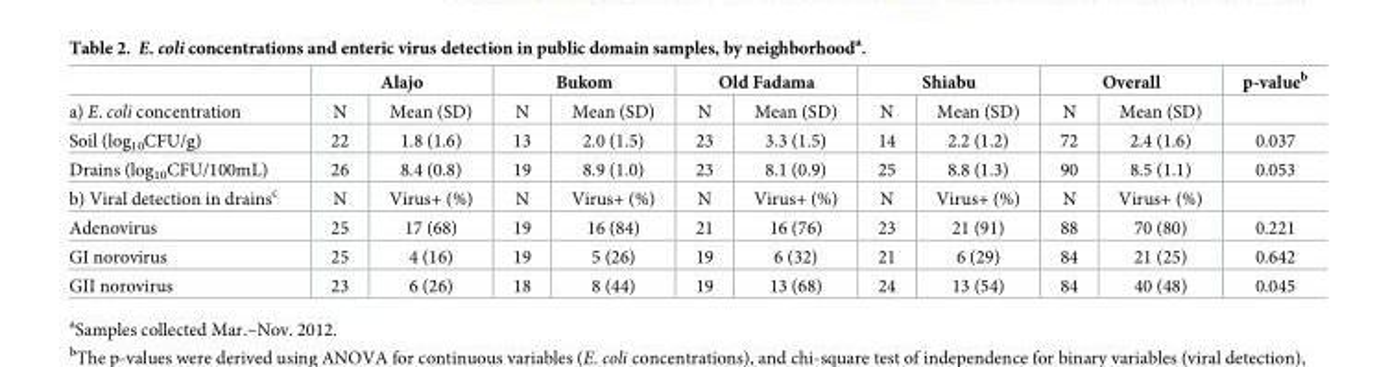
<table><thead><tr><td rowspan="2">a) E. coli concentration</td><td colspan="2">Alajo</td><td colspan="2">Bukom</td><td colspan="2">Old Fadama</td><td colspan="2">Shiabu</td><td colspan="2">Overall</td><td rowspan="2">p-value<sup>b</sup></td></tr><tr><td>N</td><td>Mean (SD)</td><td>N</td><td>Mean (SD)</td><td>N</td><td>Mean (SD)</td><td>N</td><td>Mean (SD)</td><td>N</td><td>Mean (SD)</td></tr></thead><tbody><tr><td>Soil (log<sub>10</sub>CFU/g)</td><td>22</td><td>1.8 (1.6)</td><td>13</td><td>2.0 (1.5)</td><td>23</td><td>3.3 (1.5)</td><td>14</td><td>2.2 (1.2)</td><td>72</td><td>2.4 (1.6)</td><td>0.037</td></tr><tr><td>Drains (log<sub>10</sub>CFU/100mL)</td><td>26</td><td>8.4 (0.8)</td><td>19</td><td>8.9 (1.0)</td><td>23</td><td>8.1 (0.9)</td><td>25</td><td>8.8 (1.3)</td><td>90</td><td>8.5 (1.1)</td><td>0.053</td></tr><tr><td>b) Viral detection in drains<sup>c</sup></td><td>N</td><td>Virus+ (%)</td><td>N</td><td>Virus+ (%)</td><td>N</td><td>Virus+ (%)</td><td>N</td><td>Virus+ (%)</td><td>N</td><td>Virus+ (%)</td><td></td></tr><tr><td>Adenovirus</td><td>25</td><td>17 (68)</td><td>19</td><td>16 (84)</td><td>21</td><td>16 (76)</td><td>23</td><td>21 (91)</td><td>88</td><td>70 (80)</td><td>0.221</td></tr><tr><td>GI norovirus</td><td>25</td><td>4 (16)</td><td>19</td><td>5 (26)</td><td>19</td><td>6 (32)</td><td>21</td><td>6 (29)</td><td>84</td><td>21 (25)</td><td>0.642</td></tr><tr><td>GII norovirus</td><td>23</td><td>6 (26)</td><td>18</td><td>8 (44)</td><td>19</td><td>13 (68)</td><td>24</td><td>13 (54)</td><td>84</td><td>40 (48)</td><td>0.045</td></tr></tbody></table>